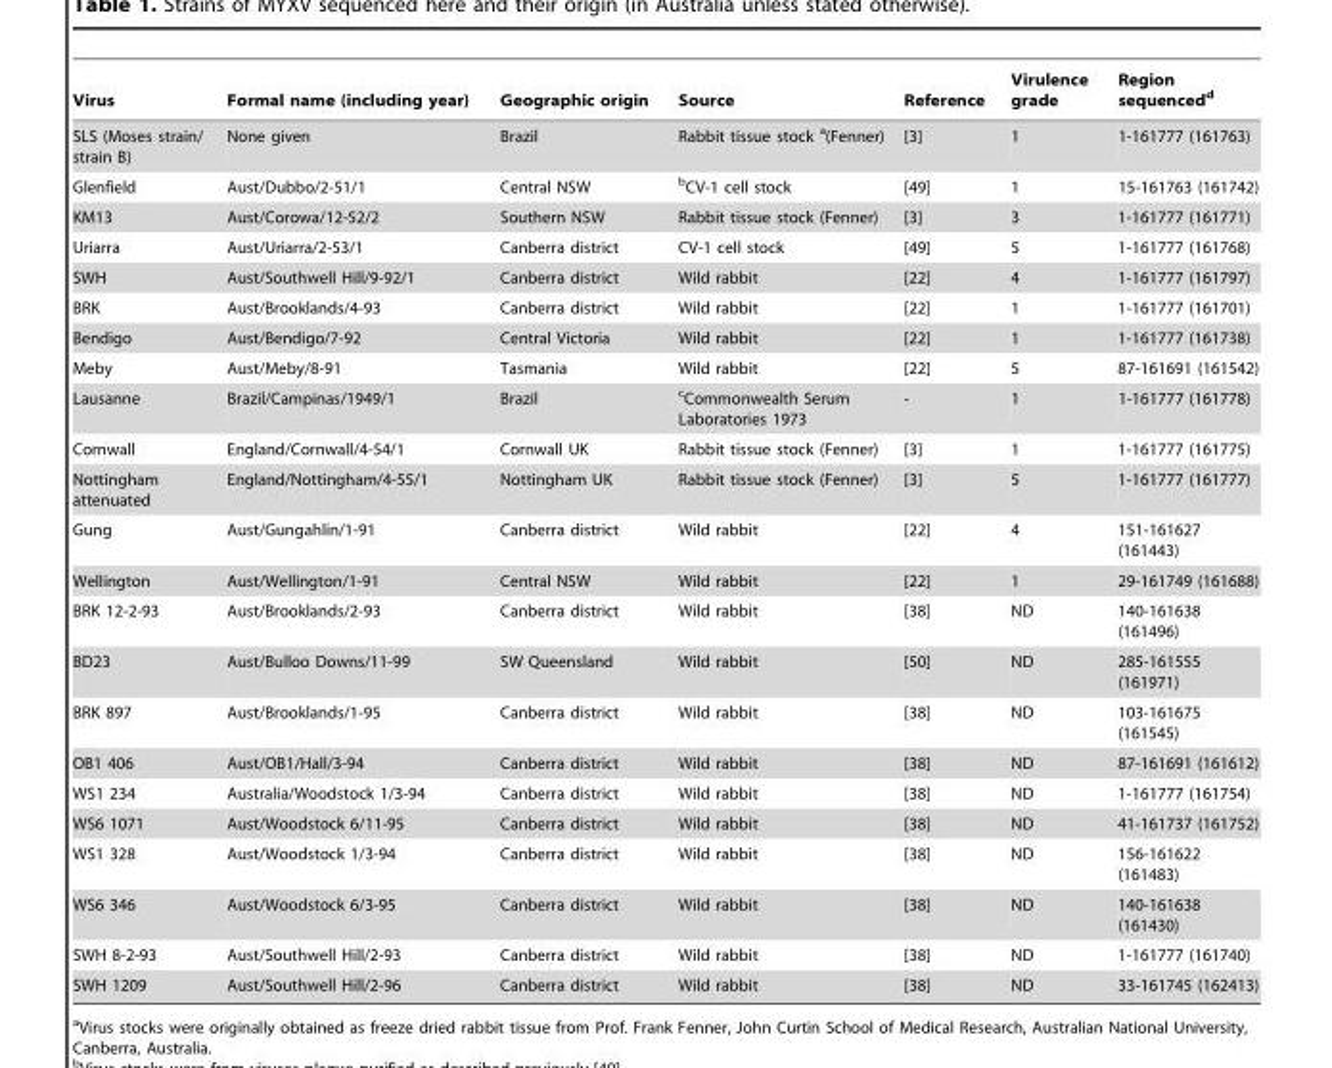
<table><thead><tr><td>Virus</td><td>Formal name (including year)</td><td>Geographic origin</td><td>Source</td><td>Reference</td><td>Virulence grade</td><td>Region sequenced<sup>d</sup></td></tr></thead><tbody><tr><td>SLS (Moses strain/ strain B)</td><td>None given</td><td>Brazil</td><td>Rabbit tissue stock a(Fenner)</td><td>[3]</td><td>1</td><td>1-161777 (161763)</td></tr><tr><td>Glenfield</td><td>Aust/Dubbo/2-51/1</td><td>Central NSW</td><td>bCV-1 cell stock</td><td>[49]</td><td>1</td><td>15-161763 (161742)</td></tr><tr><td>KM13</td><td>Aust/Corowa/12-52/2</td><td>Southern NSW</td><td>Rabbit tissue stock (Fenner)</td><td>[3]</td><td>3</td><td>1-161777 (161771)</td></tr><tr><td>Uriarra</td><td>Aust/Uriarra/2-53/1</td><td>Canberra district</td><td>CV-1 cell stock</td><td>[49]</td><td>5</td><td>1-161777 (161768)</td></tr><tr><td>SWH</td><td>Aust/Southwell Hill/9-92/1</td><td>Canberra district</td><td>Wild rabbit</td><td>[22]</td><td>4</td><td>1-161777 (161797)</td></tr><tr><td>BRK</td><td>Aust/Brooklands/4-93</td><td>Canberra district</td><td>Wild rabbit</td><td>[22]</td><td>1</td><td>1-161777 (161701)</td></tr><tr><td>Bendigo</td><td>Aust/Bendigo/7-92</td><td>Central Victoria</td><td>Wild rabbit</td><td>[22]</td><td>1</td><td>1-161777 (161738)</td></tr><tr><td>Meby</td><td>Aust/Meby/8-91</td><td>Tasmania</td><td>Wild rabbit</td><td>[22]</td><td>5</td><td>87-161691 (161542)</td></tr><tr><td>Lausanne</td><td>Brazil/Campinas/1949/1</td><td>Brazil</td><td>cCommonwealth Serum Laboratories 1973</td><td>-</td><td>1</td><td>1-161777 (161778)</td></tr><tr><td>Cornwall</td><td>England/Cornwall/4-54/1</td><td>Cornwall UK</td><td>Rabbit tissue stock (Fenner)</td><td>[3]</td><td>1</td><td>1-161777 (161775)</td></tr><tr><td>Nottingham attenuated</td><td>England/Nottingham/4-55/1</td><td>Nottingham UK</td><td>Rabbit tissue stock (Fenner)</td><td>[3]</td><td>5</td><td>1-161777 (161777)</td></tr><tr><td>Gung</td><td>Aust/Gungahlin/1-91</td><td>Canberra district</td><td>Wild rabbit</td><td>[22]</td><td>4</td><td>151-161627 (161443)</td></tr><tr><td>Wellington</td><td>Aust/Wellington/1-91</td><td>Central NSW</td><td>Wild rabbit</td><td>[22]</td><td>1</td><td>29-161749 (161688)</td></tr><tr><td>BRK 12-2-93</td><td>Aust/Brooklands/2-93</td><td>Canberra district</td><td>Wild rabbit</td><td>[38]</td><td>ND</td><td>140-161638 (161496)</td></tr><tr><td>BD23</td><td>Aust/Bulloo Downs/11-99</td><td>SW Queensland</td><td>Wild rabbit</td><td>[50]</td><td>ND</td><td>285-161555 (161971)</td></tr><tr><td>BRK 897</td><td>Aust/Brooklands/1-95</td><td>Canberra district</td><td>Wild rabbit</td><td>[38]</td><td>ND</td><td>103-161675 (161545)</td></tr><tr><td>OB1 406</td><td>Aust/OB1/Hall/3-94</td><td>Canberra district</td><td>Wild rabbit</td><td>[38]</td><td>ND</td><td>87-161691 (161612)</td></tr><tr><td>WS1 234</td><td>Australia/Woodstock 1/3-94</td><td>Canberra district</td><td>Wild rabbit</td><td>[38]</td><td>ND</td><td>1-161777 (161754)</td></tr><tr><td>WS6 1071</td><td>Aust/Woodstock 6/11-95</td><td>Canberra district</td><td>Wild rabbit</td><td>[38]</td><td>ND</td><td>41-161737 (161752)</td></tr><tr><td>WS1 328</td><td>Aust/Woodstock 1/3-94</td><td>Canberra district</td><td>Wild rabbit</td><td>[38]</td><td>ND</td><td>156-161622 (161483)</td></tr><tr><td>WS6 346</td><td>Aust/Woodstock 6/3-95</td><td>Canberra district</td><td>Wild rabbit</td><td>[38]</td><td>ND</td><td>140-161638 (161430)</td></tr><tr><td>SWH 8-2-93</td><td>Aust/Southwell Hill/2-93</td><td>Canberra district</td><td>Wild rabbit</td><td>[38]</td><td>ND</td><td>1-161777 (161740)</td></tr><tr><td>SWH 1209</td><td>Aust/Southwell Hill/2-96</td><td>Canberra district</td><td>Wild rabbit</td><td>[38]</td><td>ND</td><td>33-161745 (162413)</td></tr></tbody></table>